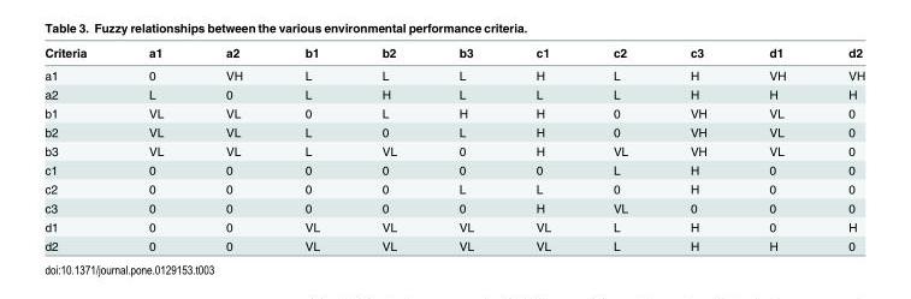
<table><thead><tr><td>Criteria</td><td>a1</td><td>a2</td><td>b1</td><td>b2</td><td>b3</td><td>c1</td><td>c2</td><td>c3</td><td>d1</td><td>d2</td></tr></thead><tbody><tr><td>a1</td><td>0</td><td>VH</td><td>L</td><td>L</td><td>L</td><td>H</td><td>L</td><td>H</td><td>VH</td><td>VH</td></tr><tr><td>a2</td><td>L</td><td>0</td><td>L</td><td>H</td><td>L</td><td>L</td><td>L</td><td>H</td><td>H</td><td>H</td></tr><tr><td>b1</td><td>VL</td><td>VL</td><td>0</td><td>L</td><td>H</td><td>H</td><td>0</td><td>VH</td><td>VL</td><td>0</td></tr><tr><td>b2</td><td>VL</td><td>VL</td><td>L</td><td>0</td><td>L</td><td>H</td><td>0</td><td>VH</td><td>VL</td><td>0</td></tr><tr><td>b3</td><td>VL</td><td>VL</td><td>L</td><td>VL</td><td>0</td><td>H</td><td>VL</td><td>VH</td><td>VL</td><td>0</td></tr><tr><td>c1</td><td>0</td><td>0</td><td>0</td><td>0</td><td>0</td><td>0</td><td>L</td><td>H</td><td>0</td><td>0</td></tr><tr><td>c2</td><td>0</td><td>0</td><td>0</td><td>0</td><td>L</td><td>L</td><td>0</td><td>H</td><td>0</td><td>0</td></tr><tr><td>c3</td><td>0</td><td>0</td><td>0</td><td>0</td><td>0</td><td>H</td><td>VL</td><td>0</td><td>0</td><td>0</td></tr><tr><td>d1</td><td>0</td><td>0</td><td>VL</td><td>VL</td><td>VL</td><td>VL</td><td>L</td><td>H</td><td>0</td><td>H</td></tr><tr><td>d2</td><td>0</td><td>0</td><td>VL</td><td>VL</td><td>VL</td><td>VL</td><td>L</td><td>H</td><td>H</td><td>0</td></tr></tbody></table>